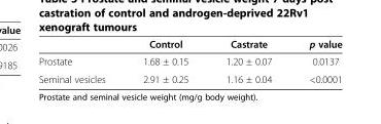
<table><thead><tr><td></td><td>Control</td><td>Castrate</td><td>p value</td></tr></thead><tbody><tr><td>Prostate</td><td>1.68 ± 0.15</td><td>1.20 ± 0.07</td><td>0.0137</td></tr><tr><td>Seminal vesicles</td><td>2.91 ± 0.25</td><td>1.16 ± 0.04</td><td>&lt;0.0001</td></tr></tbody></table>